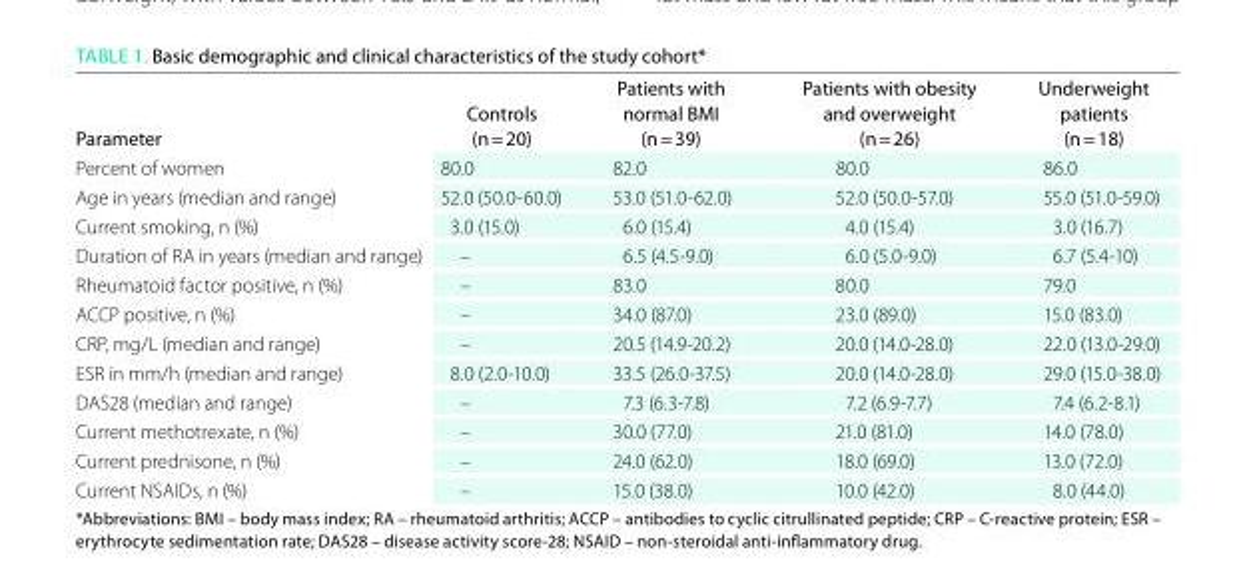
<table><thead><tr><td>Parameter</td><td>Controls (n = 20)</td><td>Patients with normal bMi (n = 39)</td><td>Patients with obesity and overweight (n = 26)</td><td>underweight patients (n = 18)</td></tr></thead><tbody><tr><td>Percent of women</td><td>80.0</td><td>82.0</td><td>80.0</td><td>86.0</td></tr><tr><td>Age in years (median and range)</td><td>52.0 (50.0-60.0)</td><td>53.0 (51.0-62.0)</td><td>52.0 (50.0-57.0)</td><td>55.0 (51.0-59.0)</td></tr><tr><td>Current smoking, n (%)</td><td>3.0 (15.0)</td><td>6.0 (15.4)</td><td>4.0 (15.4)</td><td>3.0 (16.7)</td></tr><tr><td>Duration of RA in years (median and range)</td><td>–</td><td>6.5 (4.5-9.0)</td><td>6.0 (5.0-9.0)</td><td>6.7 (5.4-10)</td></tr><tr><td>Rheumatoid factor positive, n (%)</td><td>–</td><td>83.0</td><td>80.0</td><td>79.0</td></tr><tr><td>ACCP positive, n (%)</td><td>–</td><td>34.0 (87.0)</td><td>23.0 (89.0)</td><td>15.0 (83.0)</td></tr><tr><td>CRP, mg/L (median and range)</td><td>–</td><td>20.5 (14.9-20.2)</td><td>20.0 (14.0-28.0)</td><td>22.0 (13.0-29.0)</td></tr><tr><td>ESR in mm/h (median and range)</td><td>8.0 (2.0-10.0)</td><td>33.5 (26.0-37.5)</td><td>20.0 (14.0-28.0)</td><td>29.0 (15.0-38.0)</td></tr><tr><td>DAS28 (median and range)</td><td>–</td><td>7.3 (6.3-7.8)</td><td>7.2 (6.9-7.7)</td><td>7.4 (6.2-8.1)</td></tr><tr><td>Current methotrexate, n (%)</td><td>–</td><td>30.0 (77.0)</td><td>21.0 (81.0)</td><td>14.0 (78.0)</td></tr><tr><td>Current prednisone, n (%)</td><td>–</td><td>24.0 (62.0)</td><td>18.0 (69.0)</td><td>13.0 (72.0)</td></tr><tr><td>Current NSAIDs, n (%)</td><td>–</td><td>15.0 (38.0)</td><td>10.0 (42.0)</td><td>8.0 (44.0)</td></tr></tbody></table>